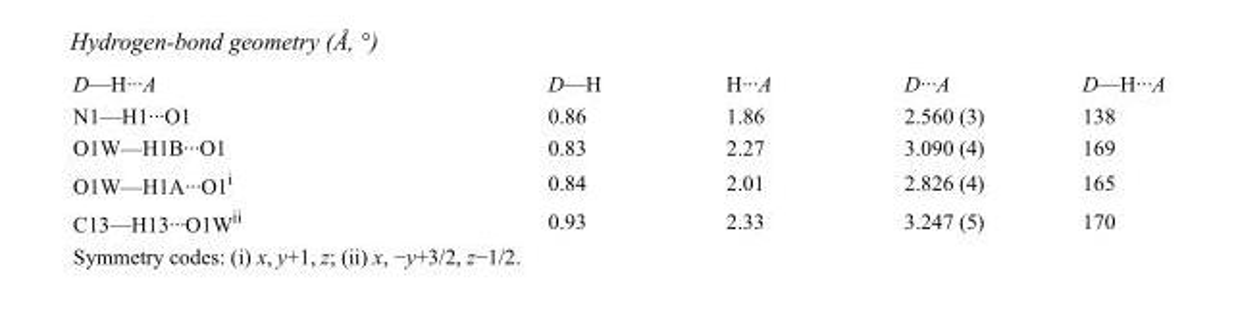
<table><tbody><tr><td>D—H···A</td><td>D—H</td><td>H···A</td><td>D···A</td><td>D—H···A</td></tr><tr><td>N1—H1···O1</td><td>0.86</td><td>1.86</td><td>2.560 (3)</td><td>138</td></tr><tr><td>O1W—H1B···O1</td><td>0.83</td><td>2.27</td><td>3.090 (4)</td><td>169</td></tr><tr><td>O1W—H1A···O1<sup>i</sup></td><td>0.84</td><td>2.01</td><td>2.826 (4)</td><td>165</td></tr><tr><td>C13—H13···O1W<sup>ii</sup></td><td>0.93</td><td>2.33</td><td>3.247 (5)</td><td>170</td></tr></tbody></table>